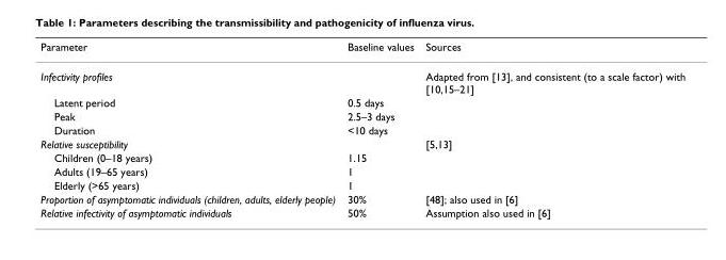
<table><thead><tr><td>Parameter</td><td>Baseline values</td><td>Sources</td></tr></thead><tbody><tr><td>Infectivity profiles</td><td></td><td>Adapted from [13], and consistent (to a scale factor) with [10,15–21]</td></tr><tr><td>Latent period</td><td>0.5 days</td><td></td></tr><tr><td>Peak</td><td>2.5–3 days</td><td></td></tr><tr><td>Duration</td><td>&lt;10 days</td><td></td></tr><tr><td>Relative susceptibility</td><td></td><td>[5,13]</td></tr><tr><td>Children (0–18 years)</td><td>1.15</td><td></td></tr><tr><td>Adults (19–65 years)</td><td>1</td><td></td></tr><tr><td>Elderly (&gt;65 years)</td><td>1</td><td></td></tr><tr><td>Proportion of asymptomatic individuals (children, adults, elderly people)</td><td>30%</td><td>[48]; also used in [6]</td></tr><tr><td>Relative infectivity of asymptomatic individuals</td><td>50%</td><td>Assumption also used in [6]</td></tr></tbody></table>